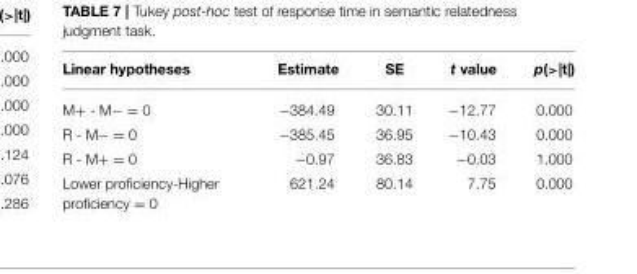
<table><thead><tr><td>Linear hypotheses</td><td>Estimate</td><td>SE</td><td>t value</td><td>p(&gt;|t|)</td></tr></thead><tbody><tr><td>M+ - M− = 0</td><td>−384.49</td><td>30.11</td><td>−12.77</td><td>0.000</td></tr><tr><td>R - M− = 0</td><td>−385.45</td><td>36.95</td><td>−10.43</td><td>0.000</td></tr><tr><td>R - M+ = 0</td><td>−0.97</td><td>36.83</td><td>−0.03</td><td>1.000</td></tr><tr><td>Lower proficiency-Higher proficiency = 0</td><td>621.24</td><td>80.14</td><td>7.75</td><td>0.000</td></tr></tbody></table>